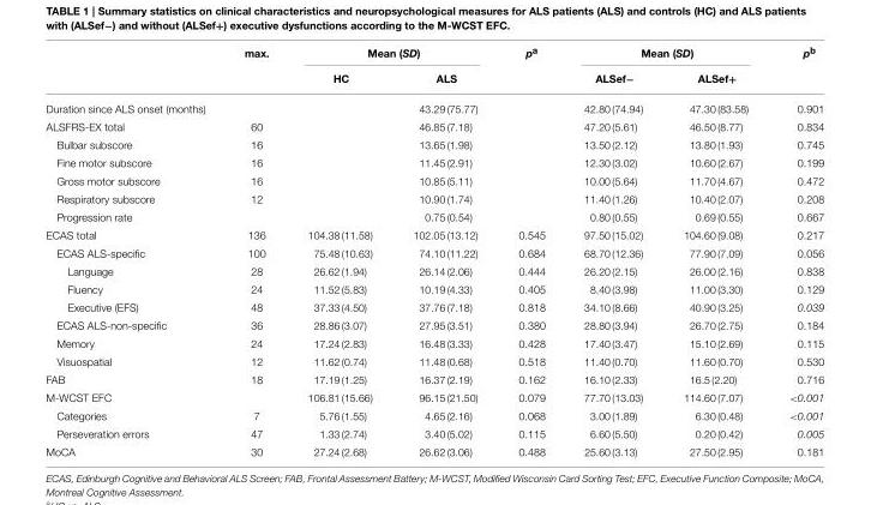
<table><thead><tr><td rowspan="2"></td><td rowspan="2">max.</td><td colspan="2">Mean (SD)</td><td rowspan="2">p<sup>a</sup></td><td colspan="2">Mean (SD)</td><td rowspan="2">p<sup>b</sup></td></tr><tr><td>HC</td><td>ALS</td><td>ALSef−</td><td>ALSef+</td></tr></thead><tbody><tr><td>Duration since ALS onset (months)</td><td></td><td></td><td>43.29 (75.77)</td><td></td><td>42.80 (74.94)</td><td>47.30 (83.58)</td><td>0.901</td></tr><tr><td>ALSFRS-EX total</td><td>60</td><td></td><td>46.85 (7.18)</td><td></td><td>47.20 (5.61)</td><td>46.50 (8.77)</td><td>0.834</td></tr><tr><td>Bulbar subscore</td><td>16</td><td></td><td>13.65 (1.98)</td><td></td><td>13.50 (2.12)</td><td>13.80 (1.93)</td><td>0.745</td></tr><tr><td>Fine motor subscore</td><td>16</td><td></td><td>11.45 (2.91)</td><td></td><td>12.30 (3.02)</td><td>10.60 (2.67)</td><td>0.199</td></tr><tr><td>Gross motor subscore</td><td>16</td><td></td><td>10.85 (5.11)</td><td></td><td>10.00 (5.64)</td><td>11.70 (4.67)</td><td>0.472</td></tr><tr><td>Respiratory subscore</td><td>12</td><td></td><td>10.90 (1.74)</td><td></td><td>11.40 (1.26)</td><td>10.40 (2.07)</td><td>0.208</td></tr><tr><td>Progression rate</td><td></td><td></td><td>0.75 (0.54)</td><td></td><td>0.80 (0.55)</td><td>0.69 (0.55)</td><td>0.667</td></tr><tr><td>ECAS total</td><td>136</td><td>104.38 (11.58)</td><td>102.05 (13.12)</td><td>0.545</td><td>97.50 (15.02)</td><td>104.60 (9.08)</td><td>0.217</td></tr><tr><td>ECAS ALS-specific</td><td>100</td><td>75.48 (10.63)</td><td>74.10 (11.22)</td><td>0.684</td><td>68.70 (12.36)</td><td>77.90 (7.09)</td><td>0.056</td></tr><tr><td>Language</td><td>28</td><td>26.62 (1.94)</td><td>26.14 (2.06)</td><td>0.444</td><td>26.20 (2.15)</td><td>26.00 (2.16)</td><td>0.838</td></tr><tr><td>Fluency</td><td>24</td><td>11.52 (5.83)</td><td>10.19 (4.33)</td><td>0.405</td><td>8.40 (3.98)</td><td>11.00 (3.30)</td><td>0.129</td></tr><tr><td>Executive (EFS)</td><td>48</td><td>37.33 (4.50)</td><td>37.76 (7.18)</td><td>0.818</td><td>34.10 (8.66)</td><td>40.90 (3.25)</td><td>0.039</td></tr><tr><td>ECAS ALS-non-specific</td><td>36</td><td>28.86 (3.07)</td><td>27.95 (3.51)</td><td>0.380</td><td>28.80 (3.94)</td><td>26.70 (2.75)</td><td>0.184</td></tr><tr><td>Memory</td><td>24</td><td>17.24 (2.83)</td><td>16.48 (3.33)</td><td>0.428</td><td>17.40 (3.47)</td><td>15.10 (2.69)</td><td>0.115</td></tr><tr><td>Visuospatial</td><td>12</td><td>11.62 (0.74)</td><td>11.48 (0.68)</td><td>0.518</td><td>11.40 (0.70)</td><td>11.60 (0.70)</td><td>0.530</td></tr><tr><td>FAB</td><td>18</td><td>17.19 (1.25)</td><td>16.37 (2.19)</td><td>0.162</td><td>16.10 (2.33)</td><td>16.5 (2.20)</td><td>0.716</td></tr><tr><td>M-WCST EFC</td><td></td><td>106.81 (15.66)</td><td>96.15 (21.50)</td><td>0.079</td><td>77.70 (13.03)</td><td>114.60 (7.07)</td><td>&lt;0.001</td></tr><tr><td>Categories</td><td>7</td><td>5.76 (1.55)</td><td>4.65 (2.16)</td><td>0.068</td><td>3.00 (1.89)</td><td>6.30 (0.48)</td><td>&lt;0.001</td></tr><tr><td>Perseveration errors</td><td>47</td><td>1.33 (2.74)</td><td>3.40 (5.02)</td><td>0.115</td><td>6.60 (5.50)</td><td>0.20 (0.42)</td><td>0.005</td></tr><tr><td>MoCA</td><td>30</td><td>27.24 (2.68)</td><td>26.62 (3.06)</td><td>0.488</td><td>25.60 (3.13)</td><td>27.50 (2.95)</td><td>0.181</td></tr></tbody></table>